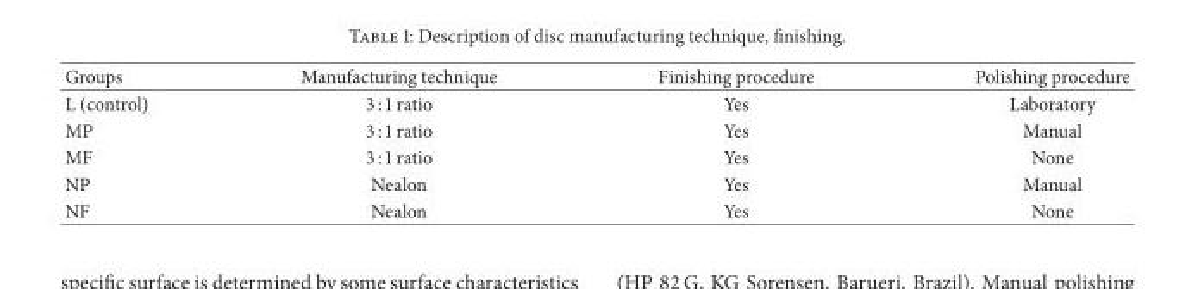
<table><thead><tr><td>Groups</td><td>Manufacturing technique</td><td>Finishing procedure</td><td>Polishing procedure</td></tr></thead><tbody><tr><td>L (control)</td><td>3 : 1 ratio</td><td>Yes</td><td>Laboratory</td></tr><tr><td>MP</td><td>3 : 1 ratio</td><td>Yes</td><td>Manual</td></tr><tr><td>MF</td><td>3 : 1 ratio</td><td>Yes</td><td>None</td></tr><tr><td>NP</td><td>Nealon</td><td>Yes</td><td>Manual</td></tr><tr><td>NF</td><td>Nealon</td><td>Yes</td><td>None</td></tr></tbody></table>